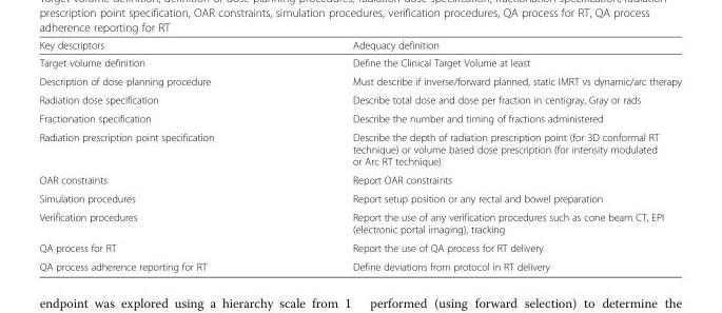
<table><thead><tr><td>Key descriptors</td><td>Adequacy definition</td></tr></thead><tbody><tr><td>Target volume definition</td><td>Define the Clinical Target Volume at least</td></tr><tr><td>Description of dose planning procedure</td><td>Must describe if inverse/forward planned, static IMRT vs dynamic/arc therapy</td></tr><tr><td>Radiation dose specification</td><td>Describe total dose and dose per fraction in centigray, Gray or rads</td></tr><tr><td>Fractionation specification</td><td>Describe the number and timing of fractions administered</td></tr><tr><td>Radiation prescription point specification</td><td>Describe the depth of radiation prescription point (for 3D conformal RT technique) or volume based dose prescription (for intensity modulated or Arc RT technique)</td></tr><tr><td>OAR constraints</td><td>Report OAR constraints</td></tr><tr><td>Simulation procedures</td><td>Report setup position or any rectal and bowel preparation</td></tr><tr><td>Verification procedures</td><td>Report the use of any verification procedures such as cone beam CT, EPI (electronic portal imaging), tracking</td></tr><tr><td>QA process for RT</td><td>Report the use of QA process for RT delivery</td></tr><tr><td>QA process adherence reporting for RT</td><td>Define deviations from protocol in RT delivery</td></tr></tbody></table>